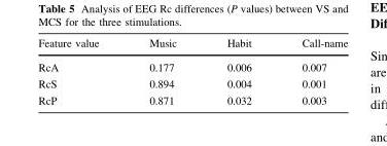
<table><thead><tr><td>Feature value</td><td>Music</td><td>Habit</td><td>Call-name</td></tr></thead><tbody><tr><td>RcA</td><td>0.177</td><td>0.006</td><td>0.007</td></tr><tr><td>RcS</td><td>0.894</td><td>0.004</td><td>0.001</td></tr><tr><td>RcP</td><td>0.871</td><td>0.032</td><td>0.003</td></tr></tbody></table>